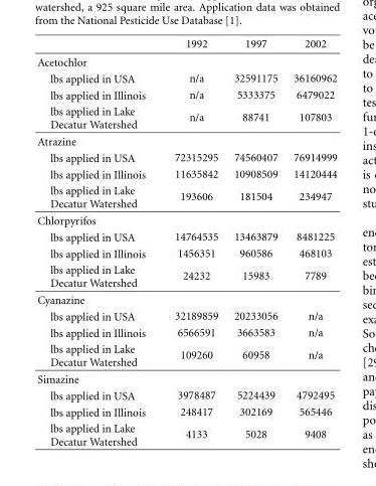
<table><thead><tr><td></td><td>1992</td><td>1997</td><td>2002</td></tr></thead><tbody><tr><td colspan="4">Acetochlor</td></tr><tr><td>lbs applied in USA</td><td>n/a</td><td>32591175</td><td>36160962</td></tr><tr><td>lbs applied in Illinois</td><td>n/a</td><td>5333375</td><td>6479022</td></tr><tr><td>lbs applied in Lake Decatur Watershed</td><td>n/a</td><td>88741</td><td>107803</td></tr><tr><td colspan="4">Atrazine</td></tr><tr><td>lbs applied in USA</td><td>72315295</td><td>74560407</td><td>76914999</td></tr><tr><td>lbs applied in Illinois</td><td>11635842</td><td>10908509</td><td>14120444</td></tr><tr><td>lbs applied in Lake Decatur Watershed</td><td>193606</td><td>181504</td><td>234947</td></tr><tr><td colspan="4">Chlorpyrifos</td></tr><tr><td>lbs applied in USA</td><td>14764535</td><td>13463879</td><td>8481225</td></tr><tr><td>lbs applied in Illinois</td><td>1456351</td><td>960586</td><td>468103</td></tr><tr><td>lbs applied in Lake Decatur Watershed</td><td>24232</td><td>15983</td><td>7789</td></tr><tr><td colspan="4">Cyanazine</td></tr><tr><td>lbs applied in USA</td><td>32189859</td><td>20233056</td><td>n/a</td></tr><tr><td>lbs applied in Illinois</td><td>6566591</td><td>3663583</td><td>n/a</td></tr><tr><td>lbs applied in Lake Decatur Watershed</td><td>109260</td><td>60958</td><td>n/a</td></tr><tr><td colspan="4">Simazine</td></tr><tr><td>lbs applied in USA</td><td>3978487</td><td>5224439</td><td>4792495</td></tr><tr><td>lbs applied in Illinois</td><td>248417</td><td>302169</td><td>565446</td></tr><tr><td>lbs applied in Lake Decatur Watershed</td><td>4133</td><td>5028</td><td>9408</td></tr></tbody></table>